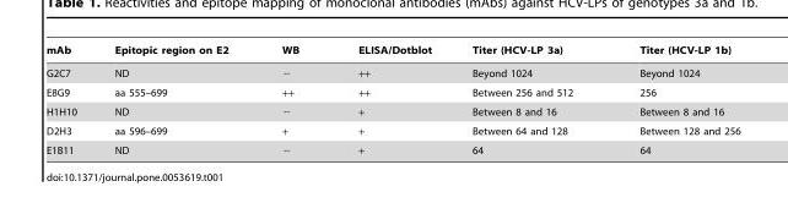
<table><thead><tr><td>mAb</td><td>Epitopic region on E2</td><td>WB</td><td>ELISA/Dotblot</td><td>Titer (HCV-LP 3a)</td><td>Titer (HCV-LP 1b)</td></tr></thead><tbody><tr><td>G2C7</td><td>ND</td><td>−</td><td>++</td><td>Beyond 1024</td><td>Beyond 1024</td></tr><tr><td>E8G9</td><td>aa 555–699</td><td>++</td><td>++</td><td>Between 256 and 512</td><td>256</td></tr><tr><td>H1H10</td><td>ND</td><td>−</td><td>+</td><td>Between 8 and 16</td><td>Between 8 and 16</td></tr><tr><td>D2H3</td><td>aa 596–699</td><td>+</td><td>+</td><td>Between 64 and 128</td><td>Between 128 and 256</td></tr><tr><td>E1B11</td><td>ND</td><td>−</td><td>+</td><td>64</td><td>64</td></tr></tbody></table>